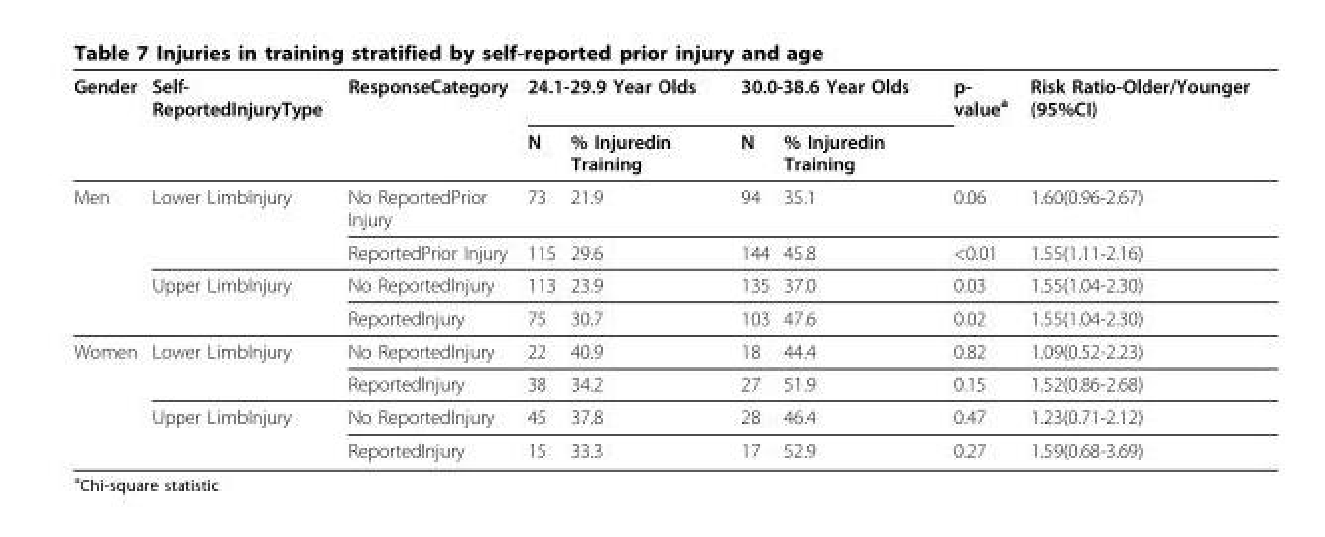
<table><thead><tr><td rowspan="2">Gender</td><td rowspan="2">Self- ReportedInjuryType</td><td rowspan="2">ResponseCategory</td><td colspan="2">24.1-29.9 Year Olds</td><td colspan="2">30.0-38.6 Year Olds</td><td rowspan="2">p- value<sup>a</sup></td><td rowspan="2">Risk Ratio-Older/Younger (95%CI)</td></tr><tr><td>N</td><td>% Injuredin Training</td><td>N</td><td>% Injuredin Training</td></tr></thead><tbody><tr><td rowspan="4">Men</td><td>Lower LimbInjury</td><td>No ReportedPrior Injury</td><td>73</td><td>21.9</td><td>94</td><td>35.1</td><td>0.06</td><td>1.60(0.96-2.67)</td></tr><tr><td></td><td>ReportedPrior Injury</td><td>115</td><td>29.6</td><td>144</td><td>45.8</td><td>&lt;0.01</td><td>1.55(1.11-2.16)</td></tr><tr><td>Upper LimbInjury</td><td>No ReportedInjury</td><td>113</td><td>23.9</td><td>135</td><td>37.0</td><td>0.03</td><td>1.55(1.04-2.30)</td></tr><tr><td></td><td>ReportedInjury</td><td>75</td><td>30.7</td><td>103</td><td>47.6</td><td>0.02</td><td>1.55(1.04-2.30)</td></tr><tr><td rowspan="4">Women</td><td>Lower LimbInjury</td><td>No ReportedInjury</td><td>22</td><td>40.9</td><td>18</td><td>44.4</td><td>0.82</td><td>1.09(0.52-2.23)</td></tr><tr><td></td><td>ReportedInjury</td><td>38</td><td>34.2</td><td>27</td><td>51.9</td><td>0.15</td><td>1.52(0.86-2.68)</td></tr><tr><td>Upper LimbInjury</td><td>No ReportedInjury</td><td>45</td><td>37.8</td><td>28</td><td>46.4</td><td>0.47</td><td>1.23(0.71-2.12)</td></tr><tr><td></td><td>ReportedInjury</td><td>15</td><td>33.3</td><td>17</td><td>52.9</td><td>0.27</td><td>1.59(0.68-3.69)</td></tr></tbody></table>